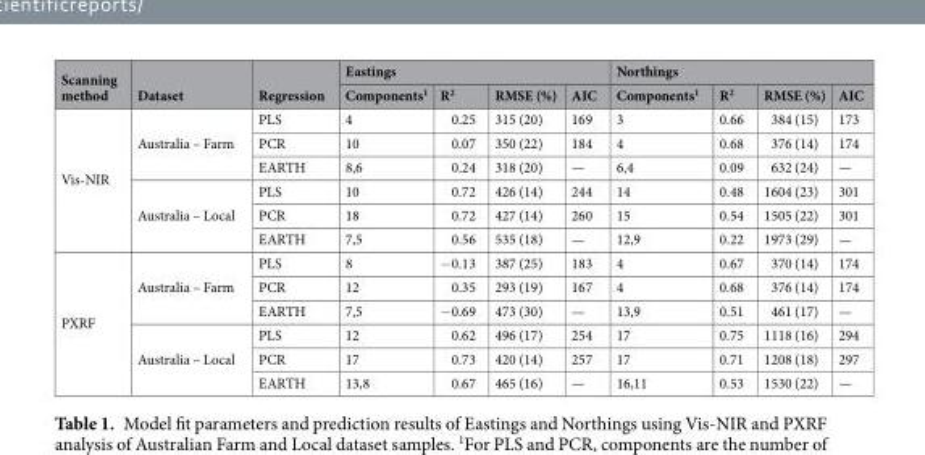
<table><thead><tr><td rowspan="2">Scanning method</td><td rowspan="2">Dataset</td><td rowspan="2">Regression</td><td colspan="4">Eastings</td><td colspan="4">Northings</td></tr><tr><td>Components<sup>1</sup></td><td>R<sup>2</sup></td><td>RMSE (%)</td><td>AIC</td><td>Components<sup>1</sup></td><td>R<sup>2</sup></td><td>RMSE (%)</td><td>AIC</td></tr></thead><tbody><tr><td rowspan="6">Vis-NIR</td><td rowspan="3">Australia – Farm</td><td>PLS</td><td>4</td><td>0.25</td><td>315 (20)</td><td>169</td><td>3</td><td>0.66</td><td>384 (15)</td><td>173</td></tr><tr><td>PCR</td><td>10</td><td>0.07</td><td>350 (22)</td><td>184</td><td>4</td><td>0.68</td><td>376 (14)</td><td>174</td></tr><tr><td>EARTH</td><td>8,6</td><td>0.24</td><td>318 (20)</td><td>—</td><td>6,4</td><td>0.09</td><td>632 (24)</td><td>—</td></tr><tr><td rowspan="3">Australia – Local</td><td>PLS</td><td>10</td><td>0.72</td><td>426 (14)</td><td>244</td><td>14</td><td>0.48</td><td>1604 (23)</td><td>301</td></tr><tr><td>PCR</td><td>18</td><td>0.72</td><td>427 (14)</td><td>260</td><td>15</td><td>0.54</td><td>1505 (22)</td><td>301</td></tr><tr><td>EARTH</td><td>7,5</td><td>0.56</td><td>535 (18)</td><td>—</td><td>12,9</td><td>0.22</td><td>1973 (29)</td><td>—</td></tr><tr><td rowspan="6">PXRF</td><td rowspan="3">Australia – Farm</td><td>PLS</td><td>8</td><td>−0.13</td><td>387 (25)</td><td>183</td><td>4</td><td>0.67</td><td>370 (14)</td><td>174</td></tr><tr><td>PCR</td><td>12</td><td>0.35</td><td>293 (19)</td><td>167</td><td>4</td><td>0.68</td><td>376 (14)</td><td>174</td></tr><tr><td>EARTH</td><td>7,5</td><td>−0.69</td><td>473 (30)</td><td>—</td><td>13,9</td><td>0.51</td><td>461 (17)</td><td>—</td></tr><tr><td rowspan="3">Australia – Local</td><td>PLS</td><td>12</td><td>0.62</td><td>496 (17)</td><td>254</td><td>17</td><td>0.75</td><td>1118 (16)</td><td>294</td></tr><tr><td>PCR</td><td>17</td><td>0.73</td><td>420 (14)</td><td>257</td><td>17</td><td>0.71</td><td>1208 (18)</td><td>297</td></tr><tr><td>EARTH</td><td>13,8</td><td>0.67</td><td>465 (16)</td><td>—</td><td>16,11</td><td>0.53</td><td>1530 (22)</td><td>—</td></tr></tbody></table>